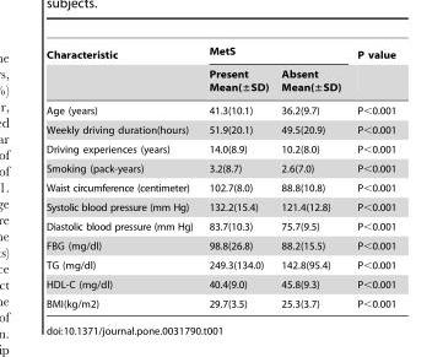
<table><thead><tr><td rowspan="2">Characteristic</td><td colspan="2">MetS</td><td rowspan="2">P value</td></tr><tr><td>Present Mean(±SD)</td><td>Absent Mean(±SD)</td></tr></thead><tbody><tr><td>Age (years)</td><td>41.3(10.1)</td><td>36.2(9.7)</td><td>P&lt;0.001</td></tr><tr><td>Weekly driving duration(hours)</td><td>51.9(20.1)</td><td>49.5(20.9)</td><td>P&lt;0.001</td></tr><tr><td>Driving experiences (years)</td><td>14.0(8.9)</td><td>10.2(8.0)</td><td>P&lt;0.001</td></tr><tr><td>Smoking (pack-years)</td><td>3.2(8.7)</td><td>2.6(7.0)</td><td>P&lt;0.001</td></tr><tr><td>Waist circumference (centimeter)</td><td>102.7(8.0)</td><td>88.8(10.8)</td><td>P&lt;0.001</td></tr><tr><td>Systolic blood pressure (mm Hg)</td><td>132.2(15.4)</td><td>121.4(12.8)</td><td>P&lt;0.001</td></tr><tr><td>Diastolic blood pressure (mm Hg)</td><td>83.7(10.3)</td><td>75.7(9.5)</td><td>P&lt;0.001</td></tr><tr><td>FBG (mg/dl)</td><td>98.8(26.8)</td><td>88.2(15.5)</td><td>P&lt;0.001</td></tr><tr><td>TG (mg/dl)</td><td>249.3(134.0)</td><td>142.8(95.4)</td><td>P&lt;0.001</td></tr><tr><td>HDL-C (mg/dl)</td><td>40.4(9.0)</td><td>45.8(9.3)</td><td>P&lt;0.001</td></tr><tr><td>BMI(kg/m2)</td><td>29.7(3.5)</td><td>25.3(3.7)</td><td>P&lt;0.001</td></tr></tbody></table>